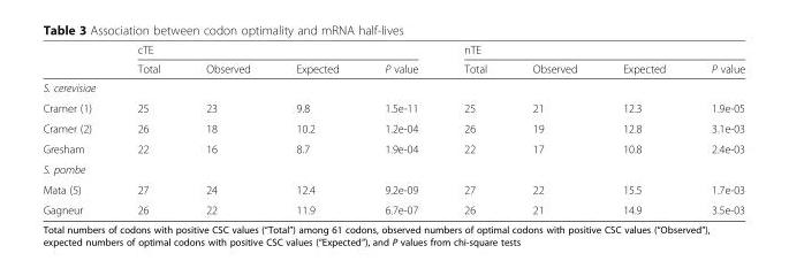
<table><thead><tr><td rowspan="2"></td><td colspan="4">cTE</td><td colspan="4">nTE</td></tr><tr><td>Total</td><td>Observed</td><td>Expected</td><td>P value</td><td>Total</td><td>Observed</td><td>Expected</td><td>P value</td></tr></thead><tbody><tr><td colspan="9">S. cerevisiae</td></tr><tr><td>Cramer (1)</td><td>25</td><td>23</td><td>9.8</td><td>1.5e-11</td><td>25</td><td>21</td><td>12.3</td><td>1.9e-05</td></tr><tr><td>Cramer (2)</td><td>26</td><td>18</td><td>10.2</td><td>1.2e-04</td><td>26</td><td>19</td><td>12.8</td><td>3.1e-03</td></tr><tr><td>Gresham</td><td>22</td><td>16</td><td>8.7</td><td>1.9e-04</td><td>22</td><td>17</td><td>10.8</td><td>2.4e-03</td></tr><tr><td colspan="9">S. pombe</td></tr><tr><td>Mata (5)</td><td>27</td><td>24</td><td>12.4</td><td>9.2e-09</td><td>27</td><td>22</td><td>15.5</td><td>1.7e-03</td></tr><tr><td>Gagneur</td><td>26</td><td>22</td><td>11.9</td><td>6.7e-07</td><td>26</td><td>21</td><td>14.9</td><td>3.5e-03</td></tr></tbody></table>